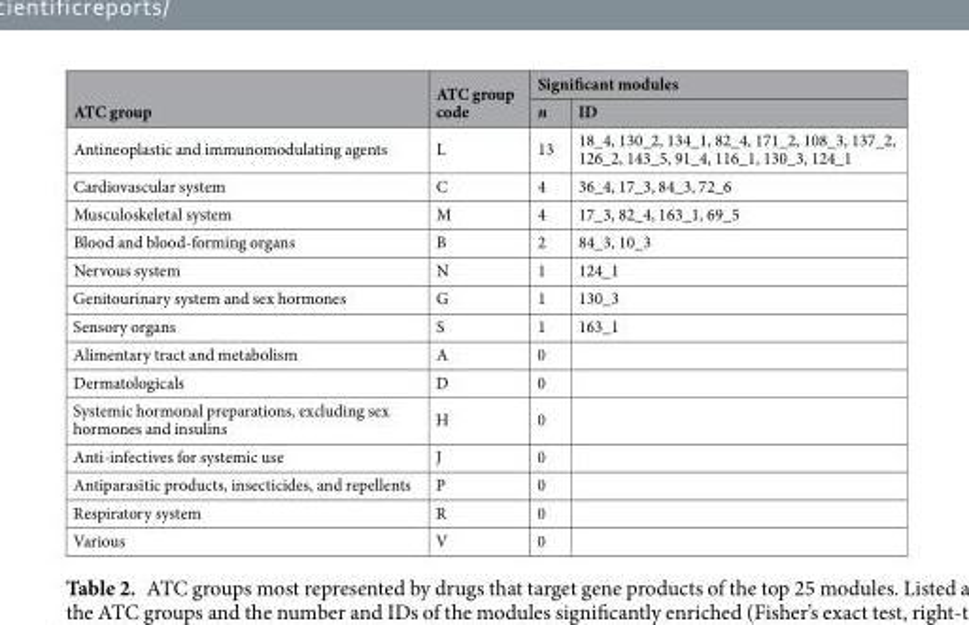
<table><thead><tr><td rowspan="2">ATC group</td><td rowspan="2">ATC group code</td><td colspan="2">Significant modules</td></tr><tr><td>n</td><td>ID</td></tr></thead><tbody><tr><td>Antineoplastic and immunomodulating agents</td><td>L</td><td>13</td><td>18_4, 130_2, 134_1, 82_4, 171_2, 108_3, 137_2, 126_2, 143_5, 91_4, 116_1, 130_3, 124_1</td></tr><tr><td>Cardiovascular system</td><td>C</td><td>4</td><td>36_4, 17_3, 84_3, 72_6</td></tr><tr><td>Musculoskeletal system</td><td>M</td><td>4</td><td>17_3, 82_4, 163_1, 69_5</td></tr><tr><td>Blood and blood-forming organs</td><td>B</td><td>2</td><td>84_3, 10_3</td></tr><tr><td>Nervous system</td><td>N</td><td>1</td><td>124_1</td></tr><tr><td>Genitourinary system and sex hormones</td><td>G</td><td>1</td><td>130_3</td></tr><tr><td>Sensory organs</td><td>S</td><td>1</td><td>163_1</td></tr><tr><td>Alimentary tract and metabolism</td><td>A</td><td>0</td><td></td></tr><tr><td>Dermatologicals</td><td>D</td><td>0</td><td></td></tr><tr><td>Systemic hormonal preparations, excluding sex hormones and insulins</td><td>H</td><td>0</td><td></td></tr><tr><td>Anti-infectives for systemic use</td><td>J</td><td>0</td><td></td></tr><tr><td>Antiparasitic products, insecticides, and repellents</td><td>P</td><td>0</td><td></td></tr><tr><td>Respiratory system</td><td>R</td><td>0</td><td></td></tr><tr><td>Various</td><td>V</td><td>0</td><td></td></tr></tbody></table>